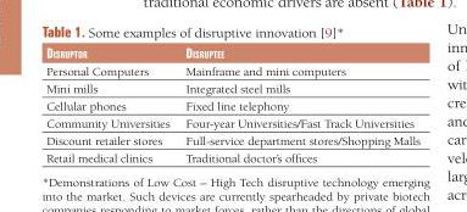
<table><thead><tr><td>Disruptor</td><td>Disruptee</td></tr></thead><tbody><tr><td>Personal Computers</td><td>Mainframe and mini computers</td></tr><tr><td>Mini mills</td><td>Integrated steel mills</td></tr><tr><td>Cellular phones</td><td>Fixed line telephony</td></tr><tr><td>Community Universities</td><td>Four-year Universities/Fast Track Universities</td></tr><tr><td>Discount retailer stores</td><td>Full-service department stores/Shopping Malls</td></tr><tr><td>Retail medical clinics</td><td>Traditional doctor’s offices</td></tr></tbody></table>